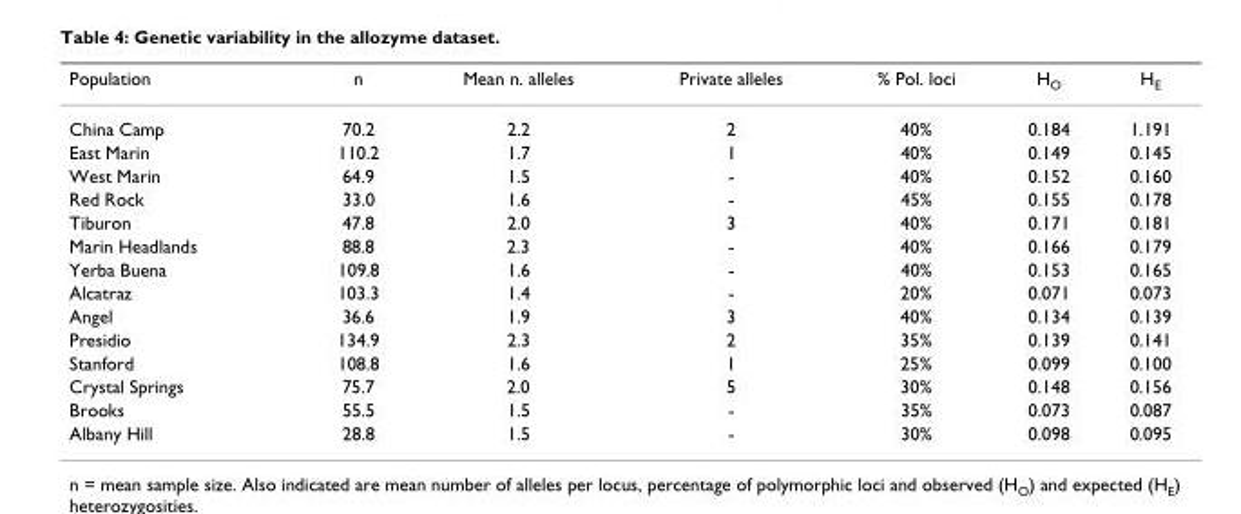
<table><thead><tr><td>Population</td><td>n</td><td>Mean n. alleles</td><td>Private alleles</td><td>% Pol. loci</td><td>H<sub>O</sub></td><td>H<sub>E</sub></td></tr></thead><tbody><tr><td>China Camp</td><td>70.2</td><td>2.2</td><td>2</td><td>40%</td><td>0.184</td><td>1.191</td></tr><tr><td>East Marin</td><td>110.2</td><td>1.7</td><td>1</td><td>40%</td><td>0.149</td><td>0.145</td></tr><tr><td>West Marin</td><td>64.9</td><td>1.5</td><td>-</td><td>40%</td><td>0.152</td><td>0.160</td></tr><tr><td>Red Rock</td><td>33.0</td><td>1.6</td><td>-</td><td>45%</td><td>0.155</td><td>0.178</td></tr><tr><td>Tiburon</td><td>47.8</td><td>2.0</td><td>3</td><td>40%</td><td>0.171</td><td>0.181</td></tr><tr><td>Marin Headlands</td><td>88.8</td><td>2.3</td><td>-</td><td>40%</td><td>0.166</td><td>0.179</td></tr><tr><td>Yerba Buena</td><td>109.8</td><td>1.6</td><td>-</td><td>40%</td><td>0.153</td><td>0.165</td></tr><tr><td>Alcatraz</td><td>103.3</td><td>1.4</td><td>-</td><td>20%</td><td>0.071</td><td>0.073</td></tr><tr><td>Angel</td><td>36.6</td><td>1.9</td><td>3</td><td>40%</td><td>0.134</td><td>0.139</td></tr><tr><td>Presidio</td><td>134.9</td><td>2.3</td><td>2</td><td>35%</td><td>0.139</td><td>0.141</td></tr><tr><td>Stanford</td><td>108.8</td><td>1.6</td><td>1</td><td>25%</td><td>0.099</td><td>0.100</td></tr><tr><td>Crystal Springs</td><td>75.7</td><td>2.0</td><td>5</td><td>30%</td><td>0.148</td><td>0.156</td></tr><tr><td>Brooks</td><td>55.5</td><td>1.5</td><td>-</td><td>35%</td><td>0.073</td><td>0.087</td></tr><tr><td>Albany Hill</td><td>28.8</td><td>1.5</td><td>-</td><td>30%</td><td>0.098</td><td>0.095</td></tr></tbody></table>